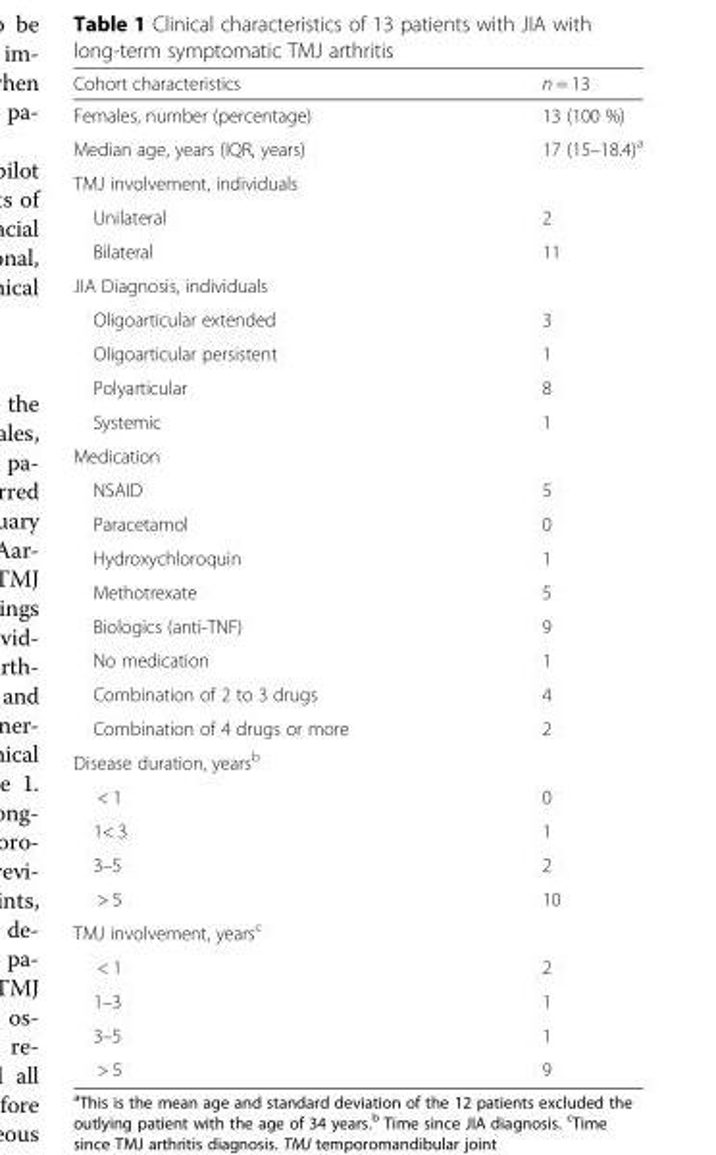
<table><thead><tr><td>Cohort characteristics</td><td>n = 13</td></tr></thead><tbody><tr><td>Females, number (percentage)</td><td>13 (100 %)</td></tr><tr><td>Median age, years (IQR, years)</td><td>17 (15–18.4)<sup>a</sup></td></tr><tr><td colspan="2">TMJ involvement, individuals</td></tr><tr><td>Unilateral</td><td>2</td></tr><tr><td>Bilateral</td><td>11</td></tr><tr><td colspan="2">JIA Diagnosis, individuals</td></tr><tr><td>Oligoarticular extended</td><td>3</td></tr><tr><td>Oligoarticular persistent</td><td>1</td></tr><tr><td>Polyarticular</td><td>8</td></tr><tr><td>Systemic</td><td>1</td></tr><tr><td colspan="2">Medication</td></tr><tr><td>NSAID</td><td>5</td></tr><tr><td>Paracetamol</td><td>0</td></tr><tr><td>Hydroxychloroquin</td><td>1</td></tr><tr><td>Methotrexate</td><td>5</td></tr><tr><td>Biologics (anti-TNF)</td><td>9</td></tr><tr><td>No medication</td><td>1</td></tr><tr><td>Combination of 2 to 3 drugs</td><td>4</td></tr><tr><td>Combination of 4 drugs or more</td><td>2</td></tr><tr><td colspan="2">Disease duration, years<sup>b</sup></td></tr><tr><td>&lt; 1</td><td>0</td></tr><tr><td>1&lt; 3</td><td>1</td></tr><tr><td>3–5</td><td>2</td></tr><tr><td>&gt; 5</td><td>10</td></tr><tr><td colspan="2">TMJ involvement, years<sup>c</sup></td></tr><tr><td>&lt; 1</td><td>2</td></tr><tr><td>1–3</td><td>1</td></tr><tr><td>3–5</td><td>1</td></tr><tr><td>&gt; 5</td><td>9</td></tr></tbody></table>